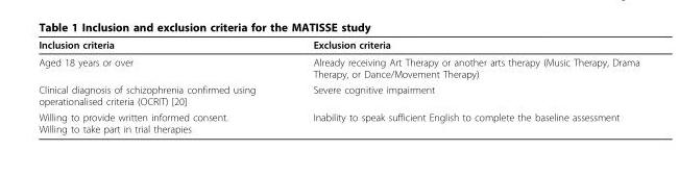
<table><thead><tr><td>Inclusion criteria</td><td>Exclusion criteria</td></tr></thead><tbody><tr><td>Aged 18 years or over</td><td>Already receiving Art Therapy or another arts therapy (Music Therapy, Drama Therapy, or Dance/Movement Therapy)</td></tr><tr><td>Clinical diagnosis of schizophrenia confirmed using operationalised criteria (OCRIT) [20]</td><td>Severe cognitive impairment</td></tr><tr><td>Willing to provide written informed consent. Willing to take part in trial therapies</td><td>Inability to speak sufficient English to complete the baseline assessment</td></tr></tbody></table>